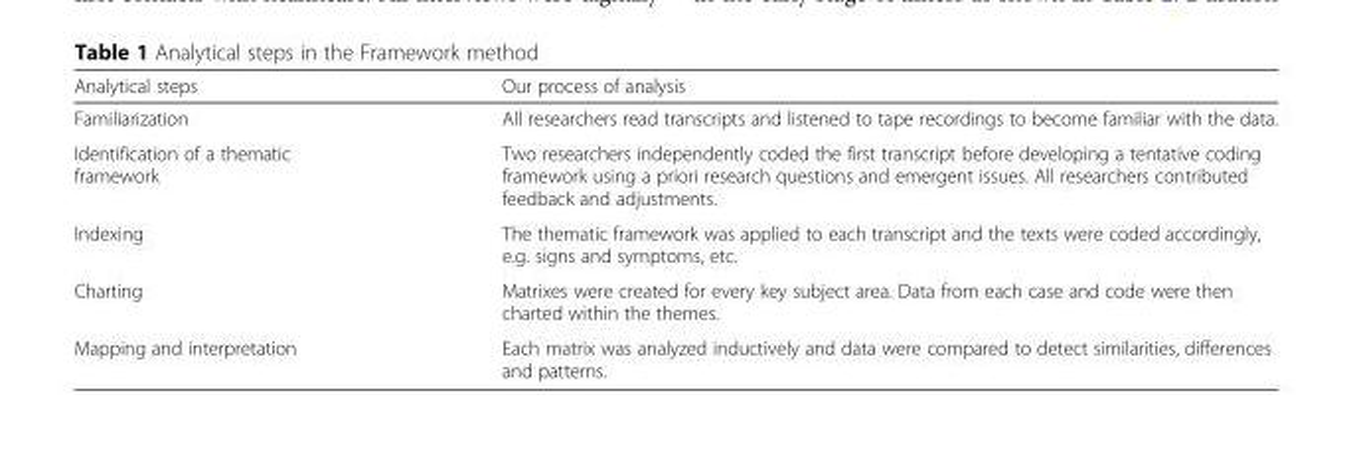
<table><thead><tr><td>Analytical steps</td><td>Our process of analysis</td></tr></thead><tbody><tr><td>Familiarization</td><td>All researchers read transcripts and listened to tape recordings to become familiar with the data.</td></tr><tr><td>Identification of a thematic framework</td><td>Two researchers independently coded the first transcript before developing a tentative coding framework using a priori research questions and emergent issues. All researchers contributed feedback and adjustments.</td></tr><tr><td>Indexing</td><td>The thematic framework was applied to each transcript and the texts were coded accordingly, e.g. signs and symptoms, etc.</td></tr><tr><td>Charting</td><td>Matrixes were created for every key subject area. Data from each case and code were then charted within the themes.</td></tr><tr><td>Mapping and interpretation</td><td>Each matrix was analyzed inductively and data were compared to detect similarities, differences and patterns.</td></tr></tbody></table>